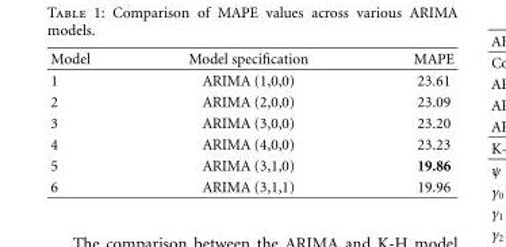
<table><thead><tr><td>Model</td><td>Model specification</td><td>MAPE</td></tr></thead><tbody><tr><td>1</td><td>ARIMA (1,0,0)</td><td>23.61</td></tr><tr><td>2</td><td>ARIMA (2,0,0)</td><td>23.09</td></tr><tr><td>3</td><td>ARIMA (3,0,0)</td><td>23.20</td></tr><tr><td>4</td><td>ARIMA (4,0,0)</td><td>23.23</td></tr><tr><td>5</td><td>ARIMA (3,1,0)</td><td>19.86</td></tr><tr><td>6</td><td>ARIMA (3,1,1)</td><td>19.96</td></tr></tbody></table>